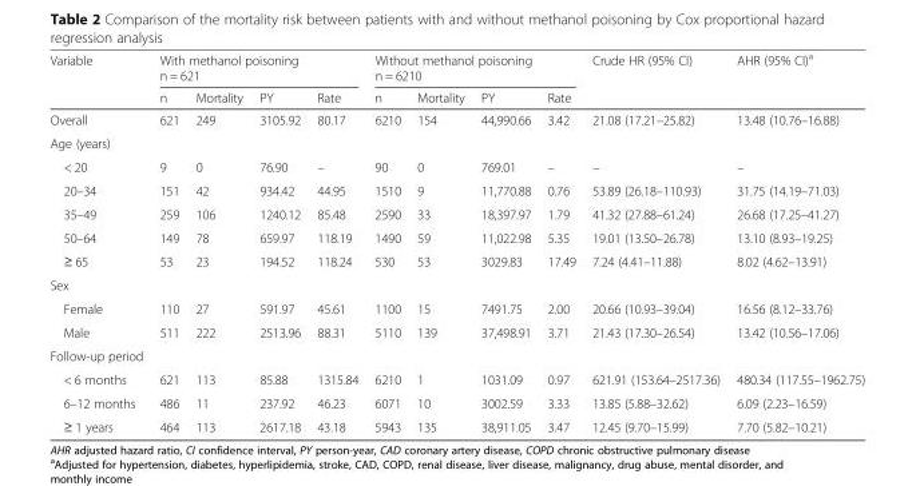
<table><thead><tr><td rowspan="2">Variable</td><td colspan="4">With methanol poisoning n = 621</td><td colspan="4">Without methanol poisoning n = 6210</td><td rowspan="2">Crude HR (95% CI)</td><td rowspan="2">AHR (95% CI)<sup>a</sup></td></tr><tr><td>n</td><td>Mortality</td><td>PY</td><td>Rate</td><td>n</td><td>Mortality</td><td>PY</td><td>Rate</td></tr></thead><tbody><tr><td>Overall</td><td>621</td><td>249</td><td>3105.92</td><td>80.17</td><td>6210</td><td>154</td><td>44,990.66</td><td>3.42</td><td>21.08 (17.21–25.82)</td><td>13.48 (10.76–16.88)</td></tr><tr><td colspan="11">Age (years)</td></tr><tr><td>&lt; 20</td><td>9</td><td>0</td><td>76.90</td><td>–</td><td>90</td><td>0</td><td>769.01</td><td>–</td><td>–</td><td>–</td></tr><tr><td>20–34</td><td>151</td><td>42</td><td>934.42</td><td>44.95</td><td>1510</td><td>9</td><td>11,770.88</td><td>0.76</td><td>53.89 (26.18–110.93)</td><td>31.75 (14.19–71.03)</td></tr><tr><td>35–49</td><td>259</td><td>106</td><td>1240.12</td><td>85.48</td><td>2590</td><td>33</td><td>18,397.97</td><td>1.79</td><td>41.32 (27.88–61.24)</td><td>26.68 (17.25–41.27)</td></tr><tr><td>50–64</td><td>149</td><td>78</td><td>659.97</td><td>118.19</td><td>1490</td><td>59</td><td>11,022.98</td><td>5.35</td><td>19.01 (13.50–26.78)</td><td>13.10 (8.93–19.25)</td></tr><tr><td>≥ 65</td><td>53</td><td>23</td><td>194.52</td><td>118.24</td><td>530</td><td>53</td><td>3029.83</td><td>17.49</td><td>7.24 (4.41–11.88)</td><td>8.02 (4.62–13.91)</td></tr><tr><td colspan="11">Sex</td></tr><tr><td>Female</td><td>110</td><td>27</td><td>591.97</td><td>45.61</td><td>1100</td><td>15</td><td>7491.75</td><td>2.00</td><td>20.66 (10.93–39.04)</td><td>16.56 (8.12–33.76)</td></tr><tr><td>Male</td><td>511</td><td>222</td><td>2513.96</td><td>88.31</td><td>5110</td><td>139</td><td>37,498.91</td><td>3.71</td><td>21.43 (17.30–26.54)</td><td>13.42 (10.56–17.06)</td></tr><tr><td colspan="11">Follow-up period</td></tr><tr><td>&lt; 6 months</td><td>621</td><td>113</td><td>85.88</td><td>1315.84</td><td>6210</td><td>1</td><td>1031.09</td><td>0.97</td><td>621.91 (153.64–2517.36)</td><td>480.34 (117.55–1962.75)</td></tr><tr><td>6–12 months</td><td>486</td><td>11</td><td>237.92</td><td>46.23</td><td>6071</td><td>10</td><td>3002.59</td><td>3.33</td><td>13.85 (5.88–32.62)</td><td>6.09 (2.23–16.59)</td></tr><tr><td>≥ 1 years</td><td>464</td><td>113</td><td>2617.18</td><td>43.18</td><td>5943</td><td>135</td><td>38,911.05</td><td>3.47</td><td>12.45 (9.70–15.99)</td><td>7.70 (5.82–10.21)</td></tr></tbody></table>